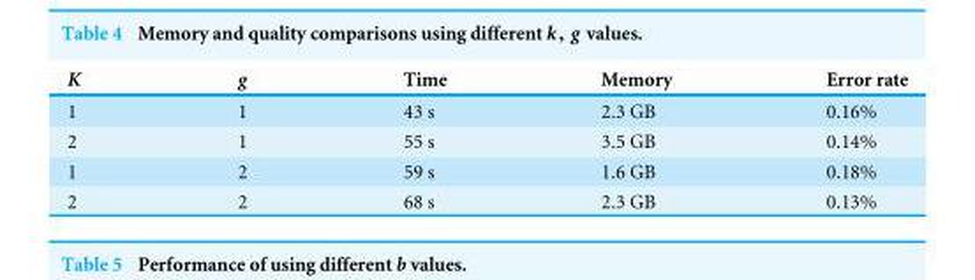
<table><thead><tr><td>K</td><td>g</td><td>Time</td><td>Memory</td><td>Error rate</td></tr></thead><tbody><tr><td>1</td><td>1</td><td>43 s</td><td>2.3 GB</td><td>0.16%</td></tr><tr><td>2</td><td>1</td><td>55 s</td><td>3.5 GB</td><td>0.14%</td></tr><tr><td>1</td><td>2</td><td>59 s</td><td>1.6 GB</td><td>0.18%</td></tr><tr><td>2</td><td>2</td><td>68 s</td><td>2.3 GB</td><td>0.13%</td></tr></tbody></table>